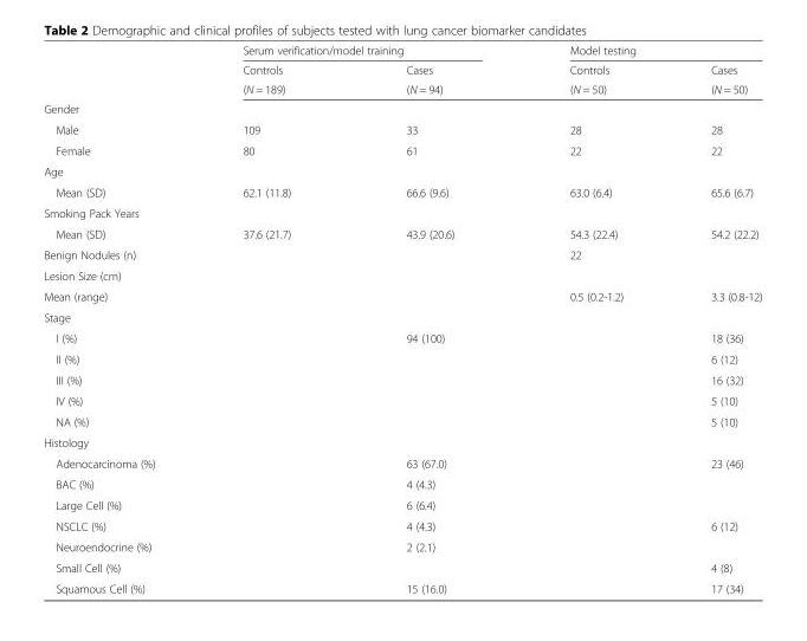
<table><thead><tr><td rowspan="3"></td><td colspan="2">Serum verification/model training</td><td colspan="2">Model testing</td></tr><tr><td rowspan="2">Controls (N = 189)</td><td rowspan="2">Cases (N = 94)</td><td rowspan="2">Controls (N = 50)</td><td rowspan="2">Cases (N = 50)</td></tr><tr></tr></thead><tbody><tr><td colspan="5">Gender</td></tr><tr><td>Male</td><td>109</td><td>33</td><td>28</td><td>28</td></tr><tr><td>Female</td><td>80</td><td>61</td><td>22</td><td>22</td></tr><tr><td colspan="5">Age</td></tr><tr><td>Mean (SD)</td><td>62.1 (11.8)</td><td>66.6 (9.6)</td><td>63.0 (6.4)</td><td>65.6 (6.7)</td></tr><tr><td colspan="5">Smoking Pack Years</td></tr><tr><td>Mean (SD)</td><td>37.6 (21.7)</td><td>43.9 (20.6)</td><td>54.3 (22.4)</td><td>54.2 (22.2)</td></tr><tr><td>Benign Nodules (n)</td><td></td><td></td><td>22</td><td></td></tr><tr><td colspan="5">Lesion Size (cm)</td></tr><tr><td>Mean (range)</td><td></td><td></td><td>0.5 (0.2-1.2)</td><td>3.3 (0.8-12)</td></tr><tr><td colspan="5">Stage</td></tr><tr><td>I (%)</td><td></td><td>94 (100)</td><td></td><td>18 (36)</td></tr><tr><td>II (%)</td><td></td><td></td><td></td><td>6 (12)</td></tr><tr><td>III (%)</td><td></td><td></td><td></td><td>16 (32)</td></tr><tr><td>IV (%)</td><td></td><td></td><td></td><td>5 (10)</td></tr><tr><td>NA (%)</td><td></td><td></td><td></td><td>5 (10)</td></tr><tr><td colspan="5">Histology</td></tr><tr><td>Adenocarcinoma (%)</td><td></td><td>63 (67.0)</td><td></td><td>23 (46)</td></tr><tr><td>BAC (%)</td><td></td><td>4 (4.3)</td><td></td><td></td></tr><tr><td>Large Cell (%)</td><td></td><td>6 (6.4)</td><td></td><td></td></tr><tr><td>NSCLC (%)</td><td></td><td>4 (4.3)</td><td></td><td>6 (12)</td></tr><tr><td>Neuroendocrine (%)</td><td></td><td>2 (2.1)</td><td></td><td></td></tr><tr><td>Small Cell (%)</td><td></td><td></td><td></td><td>4 (8)</td></tr><tr><td>Squamous Cell (%)</td><td></td><td>15 (16.0)</td><td></td><td>17 (34)</td></tr></tbody></table>